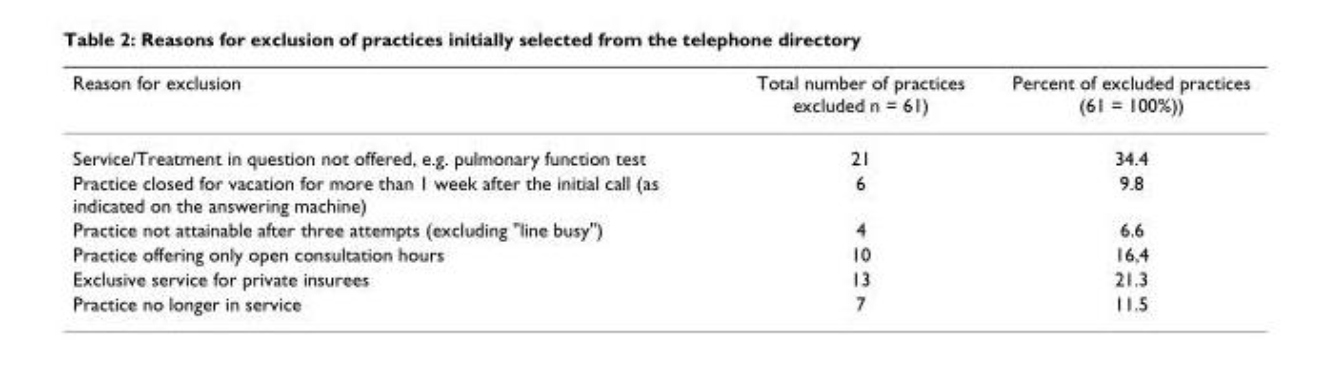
<table><thead><tr><td>Reason for exclusion</td><td>Total number of practices excluded n = 61)</td><td>Percent of excluded practices (61 = 100%))</td></tr></thead><tbody><tr><td>Service/Treatment in question not offered, e.g. pulmonary function test</td><td>21</td><td>34.4</td></tr><tr><td>Practice closed for vacation for more than 1 week after the initial call (as indicated on the answering machine)</td><td>6</td><td>9.8</td></tr><tr><td>Practice not attainable after three attempts (excluding &quot;line busy&quot;)</td><td>4</td><td>6.6</td></tr><tr><td>Practice offering only open consultation hours</td><td>10</td><td>16,4</td></tr><tr><td>Exclusive service for private insurees</td><td>13</td><td>21.3</td></tr><tr><td>Practice no longer in service</td><td>7</td><td>11.5</td></tr></tbody></table>